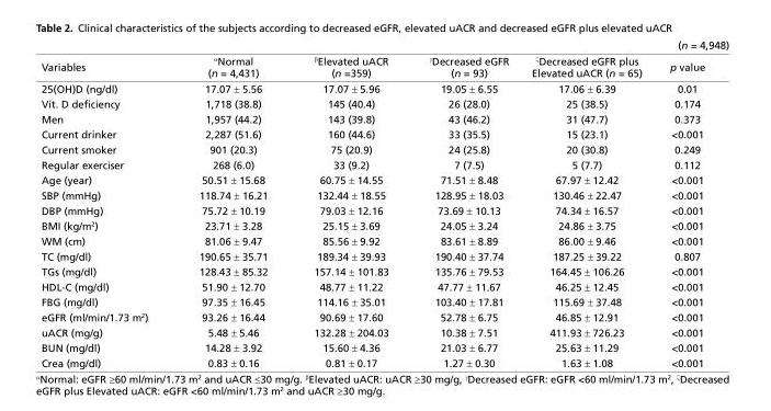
<table><thead><tr><td colspan="6">(n = 4,948)</td></tr><tr><td>Variables</td><td><sup>α</sup>Normal (n = 4,431)</td><td><sup>β</sup>Elevated uACR (n =359)</td><td><sup>γ</sup>Decreased eGFR (n = 93)</td><td><sup>ζ</sup>Decreased eGFR plus Elevated uACR (n = 65)</td><td>p value</td></tr></thead><tbody><tr><td>25(OH)D (ng/dl)</td><td>17.07 ± 5.56</td><td>17.07 ± 5.96</td><td>19.05 ± 6.55</td><td>17.06 ± 6.39</td><td>0.01</td></tr><tr><td>Vit. D deficiency</td><td>1,718 (38.8)</td><td>145 (40.4)</td><td>26 (28.0)</td><td>25 (38.5)</td><td>0.174</td></tr><tr><td>Men</td><td>1,957 (44.2)</td><td>143 (39.8)</td><td>43 (46.2)</td><td>31 (47.7)</td><td>0.373</td></tr><tr><td>Current drinker</td><td>2,287 (51.6)</td><td>160 (44.6)</td><td>33 (35.5)</td><td>15 (23.1)</td><td>&lt;0.001</td></tr><tr><td>Current smoker</td><td>901 (20.3)</td><td>75 (20.9)</td><td>24 (25.8)</td><td>20 (30.8)</td><td>0.249</td></tr><tr><td>Regular exerciser</td><td>268 (6.0)</td><td>33 (9.2)</td><td>7 (7.5)</td><td>5 (7.7)</td><td>0.112</td></tr><tr><td>Age (year)</td><td>50.51 ± 15.68</td><td>60.75 ± 14.55</td><td>71.51 ± 8.48</td><td>67.97 ± 12.42</td><td>&lt;0.001</td></tr><tr><td>SBP (mmHg)</td><td>118.74 ± 16.21</td><td>132.44 ± 18.55</td><td>128.95 ± 18.03</td><td>130.46 ± 22.47</td><td>&lt;0.001</td></tr><tr><td>DBP (mmHg)</td><td>75.72 ± 10.19</td><td>79.03 ± 12.16</td><td>73.69 ± 10.13</td><td>74.34 ± 16.57</td><td>&lt;0.001</td></tr><tr><td>BMI (kg/m<sup>2</sup>)</td><td>23.71 ± 3.28</td><td>25.15 ± 3.69</td><td>24.05 ± 3.24</td><td>24.86 ± 3.75</td><td>&lt;0.001</td></tr><tr><td>WM (cm)</td><td>81.06 ± 9.47</td><td>85.56 ± 9.92</td><td>83.61 ± 8.89</td><td>86.00 ± 9.46</td><td>&lt;0.001</td></tr><tr><td>TC (mg/dl)</td><td>190.65 ± 35.71</td><td>189.34 ± 39.93</td><td>190.40 ± 37.74</td><td>187.25 ± 39.22</td><td>0.807</td></tr><tr><td>TGs (mg/dl)</td><td>128.43 ± 85.32</td><td>157.14 ± 101.83</td><td>135.76 ± 79.53</td><td>164.45 ± 106.26</td><td>&lt;0.001</td></tr><tr><td>HDL-C (mg/dl)</td><td>51.90 ± 12.70</td><td>48.77 ± 11.22</td><td>47.77 ± 11.67</td><td>46.25 ± 12.45</td><td>&lt;0.001</td></tr><tr><td>FBG (mg/dl)</td><td>97.35 ± 16.45</td><td>114.16 ± 35.01</td><td>103.40 ± 17.81</td><td>115.69 ± 37.48</td><td>&lt;0.001</td></tr><tr><td>eGFR (ml/min/1.73 m<sup>2</sup>)</td><td>93.26 ± 16.44</td><td>90.69 ± 17.60</td><td>52.78 ± 6.75</td><td>46.85 ± 12.91</td><td>&lt;0.001</td></tr><tr><td>uACR (mg/g)</td><td>5.48 ± 5.46</td><td>132.28 ± 204.03</td><td>10.38 ± 7.51</td><td>411.93 ± 726.23</td><td>&lt;0.001</td></tr><tr><td>BUN (mg/dl)</td><td>14.28 ± 3.92</td><td>15.60 ± 4.36</td><td>21.03 ± 6.77</td><td>25.63 ± 11.29</td><td>&lt;0.001</td></tr><tr><td>Crea (mg/dl)</td><td>0.83 ± 0.16</td><td>0.81 ± 0.17</td><td>1.27 ± 0.30</td><td>1.63 ± 1.08</td><td>&lt;0.001</td></tr></tbody></table>